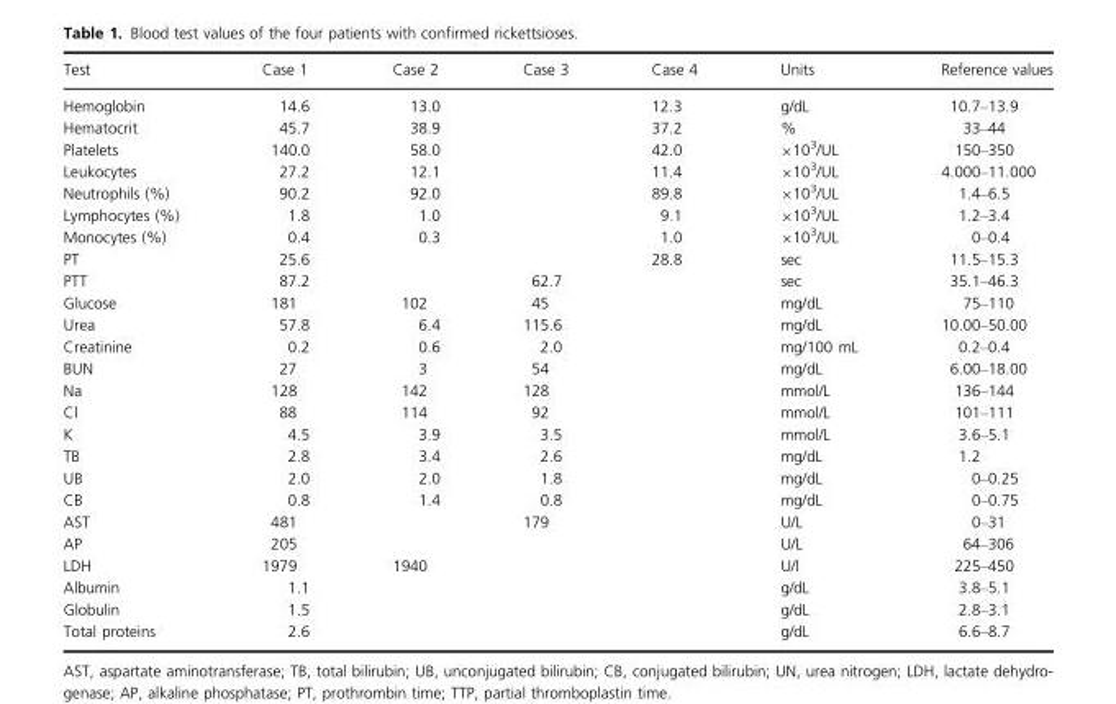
<table><thead><tr><td>Test</td><td>Case 1</td><td>Case 2</td><td>Case 3</td><td>Case 4</td><td>Units</td><td>Reference values</td></tr></thead><tbody><tr><td>Hemoglobin</td><td>14.6</td><td>13.0</td><td></td><td>12.3</td><td>g/dL</td><td>10.7–13.9</td></tr><tr><td>Hematocrit</td><td>45.7</td><td>38.9</td><td></td><td>37.2</td><td>%</td><td>33–44</td></tr><tr><td>Platelets</td><td>140.0</td><td>58.0</td><td></td><td>42.0</td><td>×10<sup>3</sup>/UL</td><td>150–350</td></tr><tr><td>Leukocytes</td><td>27.2</td><td>12.1</td><td></td><td>11.4</td><td>×10<sup>3</sup>/UL</td><td>4.000–11.000</td></tr><tr><td>Neutrophils (%)</td><td>90.2</td><td>92.0</td><td></td><td>89.8</td><td>×10<sup>3</sup>/UL</td><td>1.4–6.5</td></tr><tr><td>Lymphocytes (%)</td><td>1.8</td><td>1.0</td><td></td><td>9.1</td><td>×10<sup>3</sup>/UL</td><td>1.2–3.4</td></tr><tr><td>Monocytes (%)</td><td>0.4</td><td>0.3</td><td></td><td>1.0</td><td>×10<sup>3</sup>/UL</td><td>0–0.4</td></tr><tr><td>PT</td><td>25.6</td><td></td><td></td><td>28.8</td><td>sec</td><td>11.5–15.3</td></tr><tr><td>PTT</td><td>87.2</td><td></td><td>62.7</td><td></td><td>sec</td><td>35.1–46.3</td></tr><tr><td>Glucose</td><td>181</td><td>102</td><td>45</td><td></td><td>mg/dL</td><td>75–110</td></tr><tr><td>Urea</td><td>57.8</td><td>6.4</td><td>115.6</td><td></td><td>mg/dL</td><td>10.00–50.00</td></tr><tr><td>Creatinine</td><td>0.2</td><td>0.6</td><td>2.0</td><td></td><td>mg/100 mL</td><td>0.2–0.4</td></tr><tr><td>BUN</td><td>27</td><td>3</td><td>54</td><td></td><td>mg/dL</td><td>6.00–18.00</td></tr><tr><td>Na</td><td>128</td><td>142</td><td>128</td><td></td><td>mmol/L</td><td>136–144</td></tr><tr><td>Cl</td><td>88</td><td>114</td><td>92</td><td></td><td>mmol/L</td><td>101–111</td></tr><tr><td>K</td><td>4.5</td><td>3.9</td><td>3.5</td><td></td><td>mmol/L</td><td>3.6–5.1</td></tr><tr><td>TB</td><td>2.8</td><td>3.4</td><td>2.6</td><td></td><td>mg/dL</td><td>1.2</td></tr><tr><td>UB</td><td>2.0</td><td>2.0</td><td>1.8</td><td></td><td>mg/dL</td><td>0–0.25</td></tr><tr><td>CB</td><td>0.8</td><td>1.4</td><td>0.8</td><td></td><td>mg/dL</td><td>0–0.75</td></tr><tr><td>AST</td><td>481</td><td></td><td>179</td><td></td><td>U/L</td><td>0–31</td></tr><tr><td>AP</td><td>205</td><td></td><td></td><td></td><td>U/L</td><td>64–306</td></tr><tr><td>LDH</td><td>1979</td><td>1940</td><td></td><td></td><td>U/l</td><td>225–450</td></tr><tr><td>Albumin</td><td>1.1</td><td></td><td></td><td></td><td>g/dL</td><td>3.8–5.1</td></tr><tr><td>Globulin</td><td>1.5</td><td></td><td></td><td></td><td>g/dL</td><td>2.8–3.1</td></tr><tr><td>Total proteins</td><td>2.6</td><td></td><td></td><td></td><td>g/dL</td><td>6.6–8.7</td></tr></tbody></table>